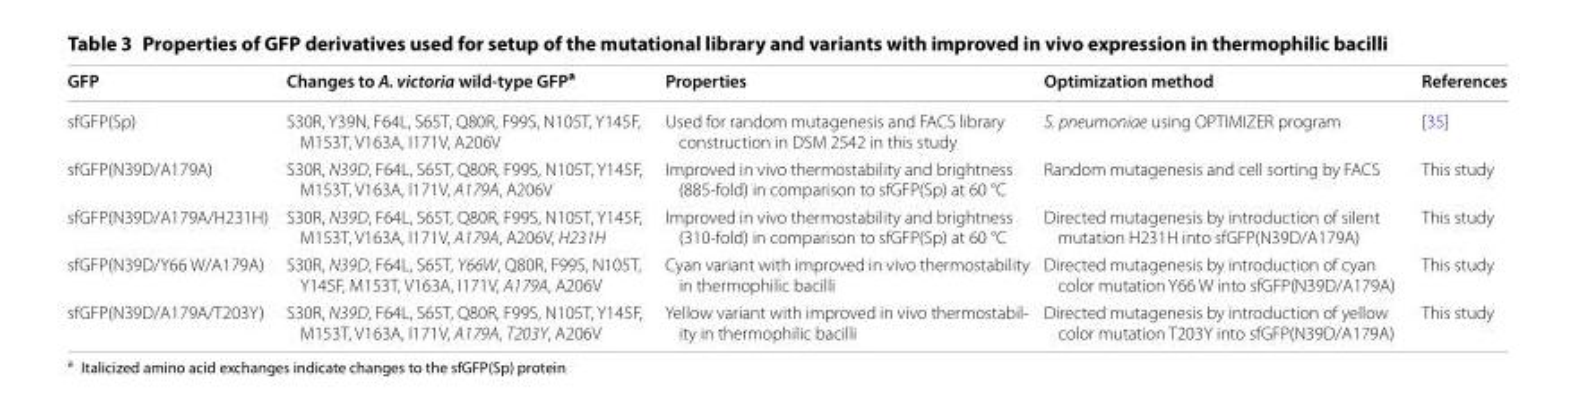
<table><thead><tr><td>GFP</td><td>Changes to A. victoria wild‑type GFP<sup>a</sup></td><td>Properties</td><td>Optimization method</td><td>References</td></tr></thead><tbody><tr><td>sfGFP(Sp)</td><td>S30R, Y39N, F64L, S65T, Q80R, F99S, N105T, Y145F, M153T, V163A, I171V, A206V</td><td>Used for random mutagenesis and FACS library construction in DSM 2542 in this study</td><td>S. pneumoniae using OPTIMIZER program</td><td>[35]</td></tr><tr><td>sfGFP(N39D/A179A)</td><td>S30R, N39D, F64L, S65T, Q80R, F99S, N105T, Y145F, M153T, V163A, I171V, A179A, A206V</td><td>Improved in vivo thermostability and brightness (885-fold) in comparison to sfGFP(Sp) at 60 °C</td><td>Random mutagenesis and cell sorting by FACS</td><td>This study</td></tr><tr><td>sfGFP(N39D/A179A/H231H)</td><td>S30R, N39D, F64L, S65T, Q80R, F99S, N105T, Y145F, M153T, V163A, I171V, A179A, A206V, H231H</td><td>Improved in vivo thermostability and brightness (310-fold) in comparison to sfGFP(Sp) at 60 °C</td><td>Directed mutagenesis by introduction of silent mutation H231H into sfGFP(N39D/A179A)</td><td>This study</td></tr><tr><td>sfGFP(N39D/Y66 W/A179A)</td><td>S30R, N39D, F64L, S65T, Y66W, Q80R, F99S, N105T, Y145F, M153T, V163A, I171V, A179A, A206V</td><td>Cyan variant with improved in vivo thermostability in thermophilic bacilli</td><td>Directed mutagenesis by introduction of cyan color mutation Y66 W into sfGFP(N39D/A179A)</td><td>This study</td></tr><tr><td>sfGFP(N39D/A179A/T203Y)</td><td>S30R, N39D, F64L, S65T, Q80R, F99S, N105T, Y145F, M153T, V163A, I171V, A179A, T203Y, A206V</td><td>Yellow variant with improved in vivo thermostabil- ity in thermophilic bacilli</td><td>Directed mutagenesis by introduction of yellow color mutation T203Y into sfGFP(N39D/A179A)</td><td>This study</td></tr></tbody></table>